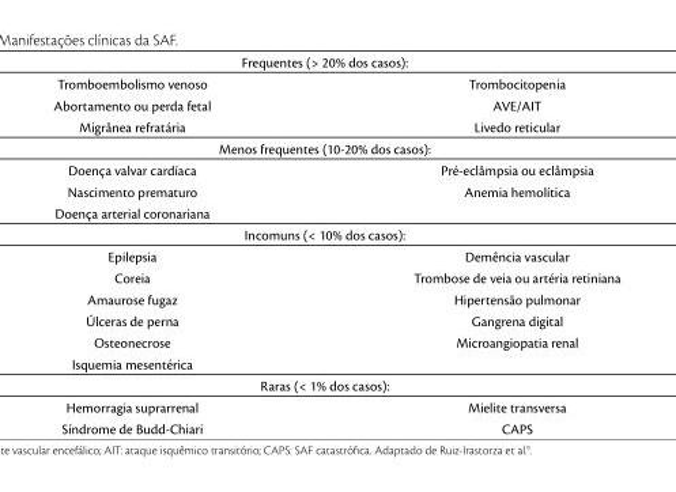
<table><thead><tr><td colspan="2">Frequentes (&gt; 20% dos casos):</td></tr><tr><td>Tromboembolismo venoso</td><td>Trombocitopenia</td></tr></thead><tbody><tr><td>Abortamento ou perda fetal</td><td>AVE/AIT</td></tr><tr><td>Migrânea refratária</td><td>Livedo reticular</td></tr><tr><td colspan="2">Menos frequentes (10-20% dos casos):</td></tr><tr><td>Doença valvar cardíaca</td><td>Pré-eclâmpsia ou eclâmpsia</td></tr><tr><td>Nascimento prematuro</td><td>Anemia hemolítica</td></tr><tr><td colspan="2">Doença arterial coronariana</td></tr><tr><td colspan="2">Incomuns (&lt; 10% dos casos):</td></tr><tr><td>Epilepsia</td><td>Demência vascular</td></tr><tr><td>Coreia</td><td>Trombose de veia ou artéria retiniana</td></tr><tr><td>Amaurose fugaz</td><td>Hipertensão pulmonar</td></tr><tr><td>Úlceras de perna</td><td>Gangrena digital</td></tr><tr><td>Osteonecrose</td><td>Microangiopatia renal</td></tr><tr><td colspan="2">Isquemia mesentérica</td></tr><tr><td colspan="2">Raras (&lt; 1% dos casos):</td></tr><tr><td>Hemorragia suprarrenal</td><td>Mielite transversa</td></tr><tr><td>Síndrome de Budd-Chiari</td><td>CAPS</td></tr></tbody></table>